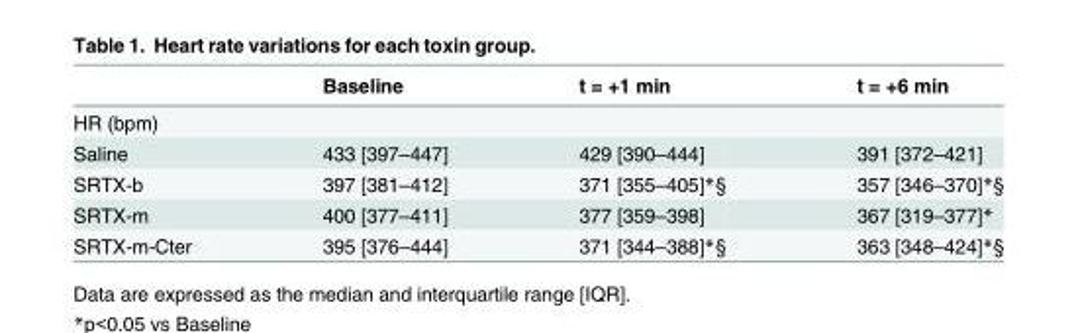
<table><thead><tr><td></td><td>Baseline</td><td>t = +1 min</td><td>t = +6 min</td></tr></thead><tbody><tr><td colspan="4">HR (bpm)</td></tr><tr><td>Saline</td><td>433 [397–447]</td><td>429 [390–444]</td><td>391 [372–421]</td></tr><tr><td>SRTX-b</td><td>397 [381–412]</td><td>371 [355–405]*§</td><td>357 [346–370]*§</td></tr><tr><td>SRTX-m</td><td>400 [377–411]</td><td>377 [359–398]</td><td>367 [319–377]*</td></tr><tr><td>SRTX-m-Cter</td><td>395 [376–444]</td><td>371 [344–388]*§</td><td>363 [348–424]*§</td></tr></tbody></table>